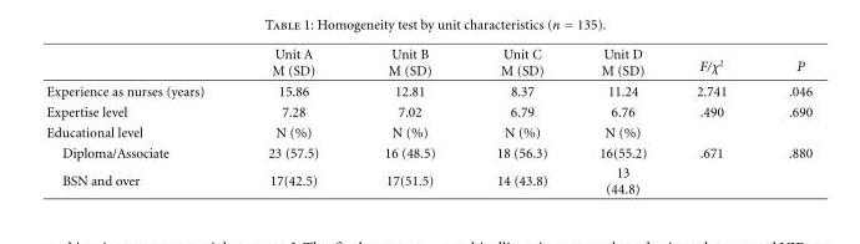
<table><thead><tr><td></td><td>Unit A M (SD)</td><td>Unit B M (SD)</td><td>Unit C M (SD)</td><td>Unit D M (SD)</td><td>F/χ<sup>2</sup></td><td>P</td></tr></thead><tbody><tr><td>Experience as nurses (years)</td><td>15.86</td><td>12.81</td><td>8.37</td><td>11.24</td><td>2.741</td><td>.046</td></tr><tr><td>Expertise level</td><td>7.28</td><td>7.02</td><td>6.79</td><td>6.76</td><td>.490</td><td>.690</td></tr><tr><td>Educational level</td><td>N (%)</td><td>N (%)</td><td>N (%)</td><td>N (%)</td><td></td><td></td></tr><tr><td>Diploma/Associate</td><td>23 (57.5)</td><td>16 (48.5)</td><td>18 (56.3)</td><td>16(55.2)</td><td>.671</td><td>.880</td></tr><tr><td>BSN and over</td><td>17(42.5)</td><td>17(51.5)</td><td>14 (43.8)</td><td>13 (44.8)</td><td></td><td></td></tr></tbody></table>